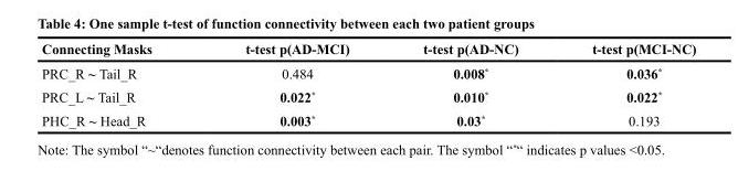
<table><thead><tr><td>Connecting Masks</td><td>t-test p(AD-MCI)</td><td>t-test p(AD-NC)</td><td>t-test p(MCI-NC)</td></tr></thead><tbody><tr><td>PRC_R ~ Tail_R</td><td>0.484</td><td>0.008*</td><td>0.036*</td></tr><tr><td>PRC_L ~ Tail_R</td><td>0.022*</td><td>0.010*</td><td>0.022*</td></tr><tr><td>PHC_R ~ Head_R</td><td>0.003*</td><td>0.03*</td><td>0.193</td></tr></tbody></table>